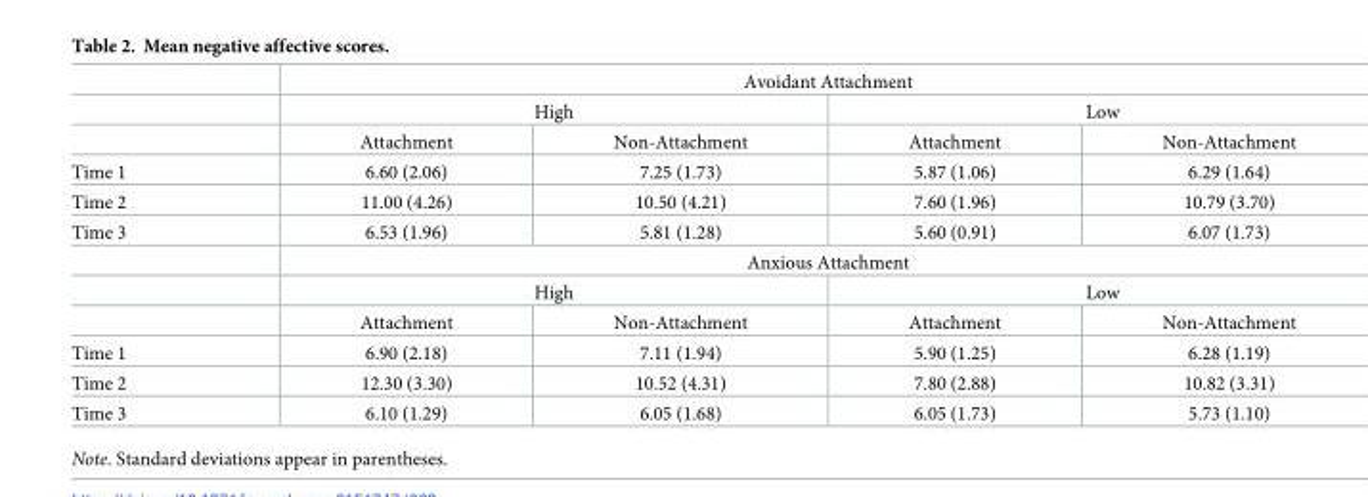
<table><thead><tr><td rowspan="3"></td><td colspan="4">Avoidant Attachment</td></tr><tr><td colspan="2">High</td><td colspan="2">Low</td></tr><tr><td>Attachment</td><td>Non-Attachment</td><td>Attachment</td><td>Non-Attachment</td></tr></thead><tbody><tr><td>Time 1</td><td>6.60 (2.06)</td><td>7.25 (1.73)</td><td>5.87 (1.06)</td><td>6.29 (1.64)</td></tr><tr><td>Time 2</td><td>11.00 (4.26)</td><td>10.50 (4.21)</td><td>7.60 (1.96)</td><td>10.79 (3.70)</td></tr><tr><td rowspan="4">Time 3</td><td>6.53 (1.96)</td><td>5.81 (1.28)</td><td>5.60 (0.91)</td><td>6.07 (1.73)</td></tr><tr><td colspan="4">Anxious Attachment</td></tr><tr><td colspan="2">High</td><td colspan="2">Low</td></tr><tr><td>Attachment</td><td>Non-Attachment</td><td>Attachment</td><td>Non-Attachment</td></tr><tr><td>Time 1</td><td>6.90 (2.18)</td><td>7.11 (1.94)</td><td>5.90 (1.25)</td><td>6.28 (1.19)</td></tr><tr><td>Time 2</td><td>12.30 (3.30)</td><td>10.52 (4.31)</td><td>7.80 (2.88)</td><td>10.82 (3.31)</td></tr><tr><td>Time 3</td><td>6.10 (1.29)</td><td>6.05 (1.68)</td><td>6.05 (1.73)</td><td>5.73 (1.10)</td></tr></tbody></table>